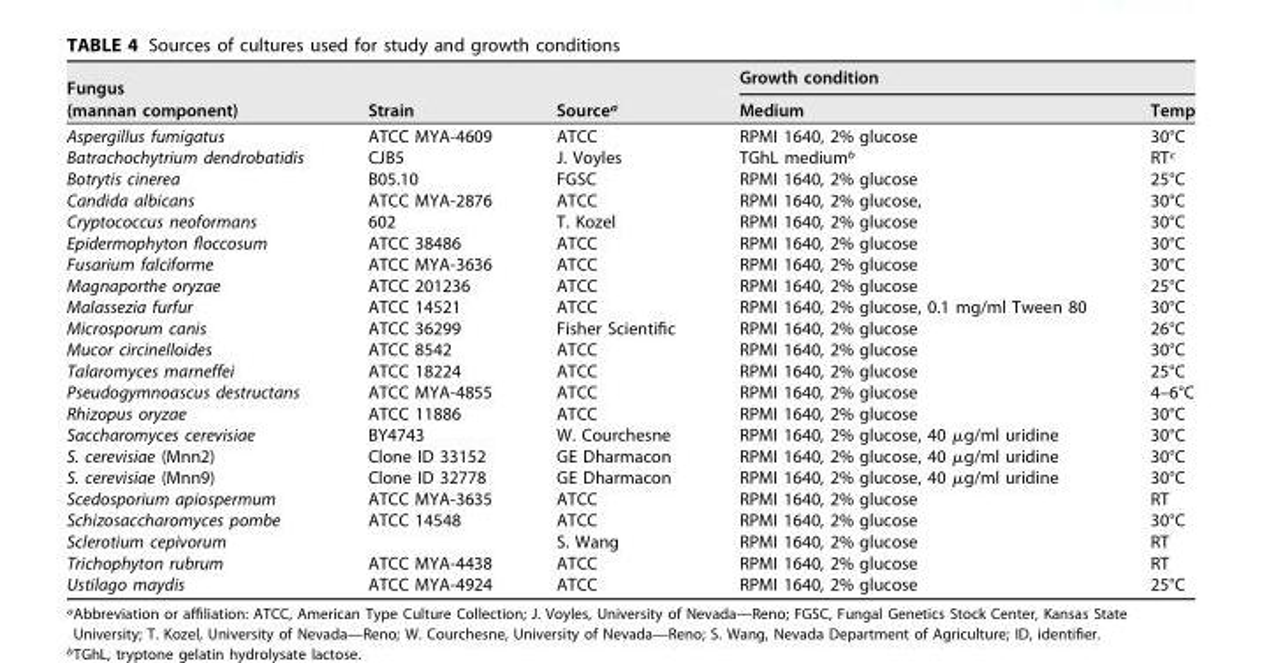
<table><thead><tr><td rowspan="2">Fungus (mannan component)</td><td rowspan="2">Strain</td><td rowspan="2">Source<sup>a</sup></td><td colspan="2">Growth condition</td></tr><tr><td>Medium</td><td>Temp</td></tr></thead><tbody><tr><td>Aspergillus fumigatus</td><td>ATCC MYA-4609</td><td>ATCC</td><td>RPMI 1640, 2% glucose</td><td>30°C</td></tr><tr><td>Batrachochytrium dendrobatidis</td><td>CJB5</td><td>J. Voyles</td><td>TGhL medium<sup>b</sup></td><td>RT<sup>c</sup></td></tr><tr><td>Botrytis cinerea</td><td>B05.10</td><td>FGSC</td><td>RPMI 1640, 2% glucose</td><td>25°C</td></tr><tr><td>Candida albicans</td><td>ATCC MYA-2876</td><td>ATCC</td><td>RPMI 1640, 2% glucose,</td><td>30°C</td></tr><tr><td>Cryptococcus neoformans</td><td>602</td><td>T. Kozel</td><td>RPMI 1640, 2% glucose</td><td>30°C</td></tr><tr><td>Epidermophyton floccosum</td><td>ATCC 38486</td><td>ATCC</td><td>RPMI 1640, 2% glucose</td><td>30°C</td></tr><tr><td>Fusarium falciforme</td><td>ATCC MYA-3636</td><td>ATCC</td><td>RPMI 1640, 2% glucose</td><td>30°C</td></tr><tr><td>Magnaporthe oryzae</td><td>ATCC 201236</td><td>ATCC</td><td>RPMI 1640, 2% glucose</td><td>25°C</td></tr><tr><td>Malassezia furfur</td><td>ATCC 14521</td><td>ATCC</td><td>RPMI 1640, 2% glucose, 0.1 mg/ml Tween 80</td><td>30°C</td></tr><tr><td>Microsporum canis</td><td>ATCC 36299</td><td>Fisher Scientific</td><td>RPMI 1640, 2% glucose</td><td>26°C</td></tr><tr><td>Mucor circinelloides</td><td>ATCC 8542</td><td>ATCC</td><td>RPMI 1640, 2% glucose</td><td>30°C</td></tr><tr><td>Talaromyces marneffei</td><td>ATCC 18224</td><td>ATCC</td><td>RPMI 1640, 2% glucose</td><td>25°C</td></tr><tr><td>Pseudogymnoascus destructans</td><td>ATCC MYA-4855</td><td>ATCC</td><td>RPMI 1640, 2% glucose</td><td>4–6°C</td></tr><tr><td>Rhizopus oryzae</td><td>ATCC 11886</td><td>ATCC</td><td>RPMI 1640, 2% glucose</td><td>30°C</td></tr><tr><td>Saccharomyces cerevisiae</td><td>BY4743</td><td>W. Courchesne</td><td>RPMI 1640, 2% glucose, 40 µg/ml uridine</td><td>30°C</td></tr><tr><td>S. cerevisiae (Mnn2)</td><td>Clone ID 33152</td><td>GE Dharmacon</td><td>RPMI 1640, 2% glucose, 40 µg/ml uridine</td><td>30°C</td></tr><tr><td>S. cerevisiae (Mnn9)</td><td>Clone ID 32778</td><td>GE Dharmacon</td><td>RPMI 1640, 2% glucose, 40 µg/ml uridine</td><td>30°C</td></tr><tr><td>Scedosporium apiospermum</td><td>ATCC MYA-3635</td><td>ATCC</td><td>RPMI 1640, 2% glucose</td><td>RT</td></tr><tr><td>Schizosaccharomyces pombe</td><td>ATCC 14548</td><td>ATCC</td><td>RPMI 1640, 2% glucose</td><td>30°C</td></tr><tr><td>Sclerotium cepivorum</td><td></td><td>S. Wang</td><td>RPMI 1640, 2% glucose</td><td>RT</td></tr><tr><td>Trichophyton rubrum</td><td>ATCC MYA-4438</td><td>ATCC</td><td>RPMI 1640, 2% glucose</td><td>RT</td></tr><tr><td>Ustilago maydis</td><td>ATCC MYA-4924</td><td>ATCC</td><td>RPMI 1640, 2% glucose</td><td>25°C</td></tr></tbody></table>